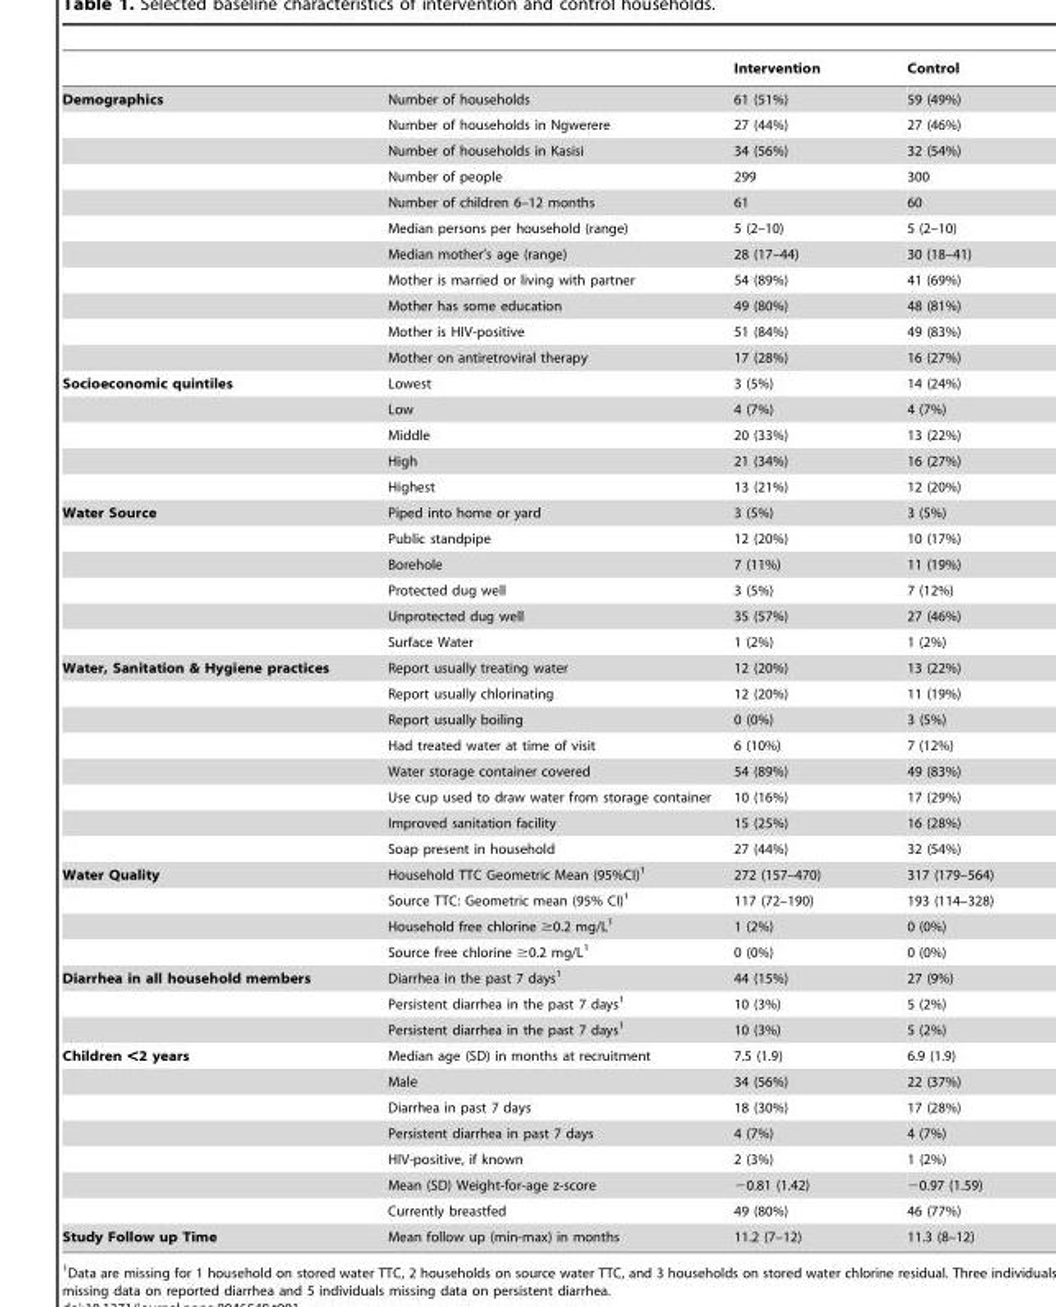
<table><thead><tr><td></td><td></td><td>Intervention</td><td>Control</td></tr></thead><tbody><tr><td rowspan="11">Demographics</td><td>Number of households</td><td>61 (51%)</td><td>59 (49%)</td></tr><tr><td>Number of households in Ngwerere</td><td>27 (44%)</td><td>27 (46%)</td></tr><tr><td>Number of households in Kasisi</td><td>34 (56%)</td><td>32 (54%)</td></tr><tr><td>Number of people</td><td>299</td><td>300</td></tr><tr><td>Number of children 6–12 months</td><td>61</td><td>60</td></tr><tr><td>Median persons per household (range)</td><td>5 (2–10)</td><td>5 (2–10)</td></tr><tr><td>Median mother’s age (range)</td><td>28 (17–44)</td><td>30 (18–41)</td></tr><tr><td>Mother is married or living with partner</td><td>54 (89%)</td><td>41 (69%)</td></tr><tr><td>Mother has some education</td><td>49 (80%)</td><td>48 (81%)</td></tr><tr><td>Mother is HIV-positive</td><td>51 (84%)</td><td>49 (83%)</td></tr><tr><td>Mother on antiretroviral therapy</td><td>17 (28%)</td><td>16 (27%)</td></tr><tr><td rowspan="5">Socioeconomic quintiles</td><td>Lowest</td><td>3 (5%)</td><td>14 (24%)</td></tr><tr><td>Low</td><td>4 (7%)</td><td>4 (7%)</td></tr><tr><td>Middle</td><td>20 (33%)</td><td>13 (22%)</td></tr><tr><td>High</td><td>21 (34%)</td><td>16 (27%)</td></tr><tr><td>Highest</td><td>13 (21%)</td><td>12 (20%)</td></tr><tr><td rowspan="6">Water Source</td><td>Piped into home or yard</td><td>3 (5%)</td><td>3 (5%)</td></tr><tr><td>Public standpipe</td><td>12 (20%)</td><td>10 (17%)</td></tr><tr><td>Borehole</td><td>7 (11%)</td><td>11 (19%)</td></tr><tr><td>Protected dug well</td><td>3 (5%)</td><td>7 (12%)</td></tr><tr><td>Unprotected dug well</td><td>35 (57%)</td><td>27 (46%)</td></tr><tr><td>Surface Water</td><td>1 (2%)</td><td>1 (2%)</td></tr><tr><td rowspan="8">Water, Sanitation &amp; Hygiene practices</td><td>Report usually treating water</td><td>12 (20%)</td><td>13 (22%)</td></tr><tr><td>Report usually chlorinating</td><td>12 (20%)</td><td>11 (19%)</td></tr><tr><td>Report usually boiling</td><td>0 (0%)</td><td>3 (5%)</td></tr><tr><td>Had treated water at time of visit</td><td>6 (10%)</td><td>7 (12%)</td></tr><tr><td>Water storage container covered</td><td>54 (89%)</td><td>49 (83%)</td></tr><tr><td>Use cup used to draw water from storage container</td><td>10 (16%)</td><td>17 (29%)</td></tr><tr><td>Improved sanitation facility</td><td>15 (25%)</td><td>16 (28%)</td></tr><tr><td>Soap present in household</td><td>27 (44%)</td><td>32 (54%)</td></tr><tr><td rowspan="4">Water Quality</td><td>Household TTC Geometric Mean (95%CI)<sup>1</sup></td><td>272 (157–470)</td><td>317 (179–564)</td></tr><tr><td>Source TTC: Geometric mean (95% CI)<sup>1</sup></td><td>117 (72–190)</td><td>193 (114–328)</td></tr><tr><td>Household free chlorine ≥0.2 mg/L<sup>1</sup></td><td>1 (2%)</td><td>0 (0%)</td></tr><tr><td>Source free chlorine ≥0.2 mg/L<sup>1</sup></td><td>0 (0%)</td><td>0 (0%)</td></tr><tr><td rowspan="3">Diarrhea in all household members</td><td>Diarrhea in the past 7 days<sup>1</sup></td><td>44 (15%)</td><td>27 (9%)</td></tr><tr><td>Persistent diarrhea in the past 7 days<sup>1</sup></td><td>10 (3%)</td><td>5 (2%)</td></tr><tr><td>Persistent diarrhea in the past 7 days<sup>1</sup></td><td>10 (3%)</td><td>5 (2%)</td></tr><tr><td rowspan="7">Children &lt;2 years</td><td>Median age (SD) in months at recruitment</td><td>7.5 (1.9)</td><td>6.9 (1.9)</td></tr><tr><td>Male</td><td>34 (56%)</td><td>22 (37%)</td></tr><tr><td>Diarrhea in past 7 days</td><td>18 (30%)</td><td>17 (28%)</td></tr><tr><td>Persistent diarrhea in past 7 days</td><td>4 (7%)</td><td>4 (7%)</td></tr><tr><td>HIV-positive, if known</td><td>2 (3%)</td><td>1 (2%)</td></tr><tr><td>Mean (SD) Weight-for-age z-score</td><td>−0.81 (1.42)</td><td>−0.97 (1.59)</td></tr><tr><td>Currently breastfed</td><td>49 (80%)</td><td>46 (77%)</td></tr><tr><td>Study Follow up Time</td><td>Mean follow up (min-max) in months</td><td>11.2 (7–12)</td><td>11.3 (8–12)</td></tr></tbody></table>